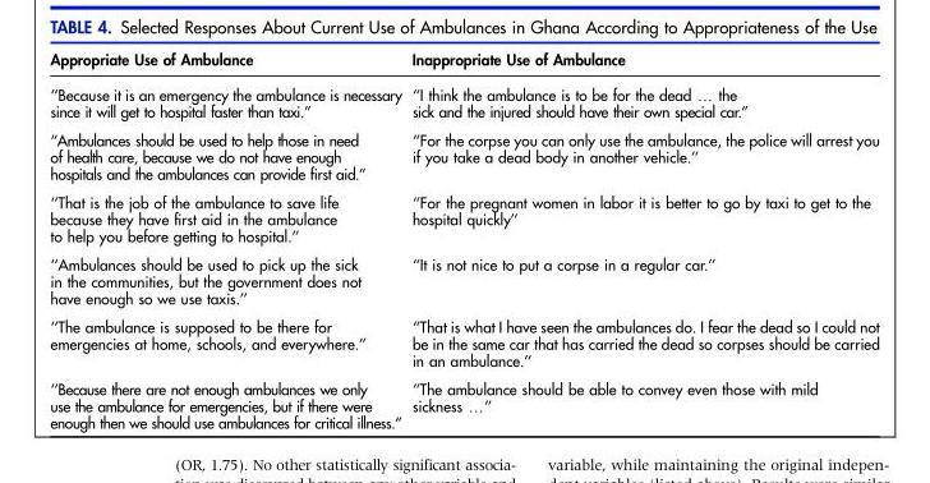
<table><thead><tr><td>Appropriate Use of Ambulance</td><td>Inappropriate Use of Ambulance</td></tr></thead><tbody><tr><td>‘‘Because it is an emergency the ambulance is necessary since it will get to hospital faster than taxi.’’</td><td>‘‘I think the ambulance is to be for the dead y the sick and the injured should have their own special car.’’</td></tr><tr><td>‘‘Ambulances should be used to help those in need of health care, because we do not have enough hospitals and the ambulances can provide first aid.’’</td><td>‘‘For the corpse you can only use the ambulance, the police will arrest you if you take a dead body in another vehicle.’’</td></tr><tr><td>‘‘That is the job of the ambulance to save life because they have first aid in the ambulance to help you before getting to hospital.’’</td><td>‘‘For the pregnant women in labor it is better to go by taxi to get to the hospital quickly’’</td></tr><tr><td>‘‘Ambulances should be used to pick up the sick in the communities, but the government does not have enough so we use taxis.’’</td><td>‘‘It is not nice to put a corpse in a regular car.’’</td></tr><tr><td>‘‘The ambulance is supposed to be there for emergencies at home, schools, and everywhere.’’</td><td>‘‘That is what I have seen the ambulances do. I fear the dead so I could not be in the same car that has carried the dead so corpses should be carried in an ambulance.’’</td></tr><tr><td>‘‘Because there are not enough ambulances we only use the ambulance for emergencies, but if there were enough then we should use ambulances for critical illness.’’</td><td>‘‘The ambulance should be able to convey even those with mild sickness y’’</td></tr></tbody></table>